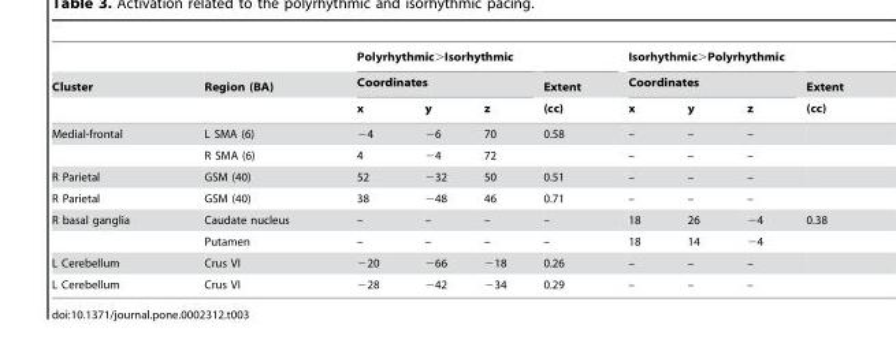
<table><thead><tr><td rowspan="3">Cluster</td><td rowspan="3">Region (BA)</td><td colspan="4">Polyrhythmic&gt;Isorhythmic</td><td colspan="4">Isorhythmic&gt;Polyrhythmic</td></tr><tr><td colspan="3">Coordinates</td><td rowspan="2">Extent (cc)</td><td colspan="3">Coordinates</td><td rowspan="2">Extent (cc)</td></tr><tr><td>x</td><td>y</td><td>z</td><td>x</td><td>y</td><td>z</td></tr></thead><tbody><tr><td rowspan="2">Medial-frontal</td><td>L SMA (6)</td><td>−4</td><td>−6</td><td>70</td><td>0.58</td><td>–</td><td>–</td><td>–</td><td></td></tr><tr><td>R SMA (6)</td><td>4</td><td>−4</td><td>72</td><td></td><td>–</td><td>–</td><td>–</td><td></td></tr><tr><td>R Parietal</td><td>GSM (40)</td><td>52</td><td>−32</td><td>50</td><td>0.51</td><td>–</td><td>–</td><td>–</td><td></td></tr><tr><td>R Parietal</td><td>GSM (40)</td><td>38</td><td>−48</td><td>46</td><td>0.71</td><td>–</td><td>–</td><td>–</td><td></td></tr><tr><td rowspan="2">R basal ganglia</td><td>Caudate nucleus</td><td>–</td><td>–</td><td>–</td><td>–</td><td>18</td><td>26</td><td>−4</td><td>0.38</td></tr><tr><td>Putamen</td><td>–</td><td>–</td><td>–</td><td>–</td><td>18</td><td>14</td><td>−4</td><td></td></tr><tr><td>L Cerebellum</td><td>Crus VI</td><td>−20</td><td>−66</td><td>−18</td><td>0.26</td><td>–</td><td>–</td><td>–</td><td></td></tr><tr><td>L Cerebellum</td><td>Crus VI</td><td>−28</td><td>−42</td><td>−34</td><td>0.29</td><td>–</td><td>–</td><td>–</td><td></td></tr></tbody></table>